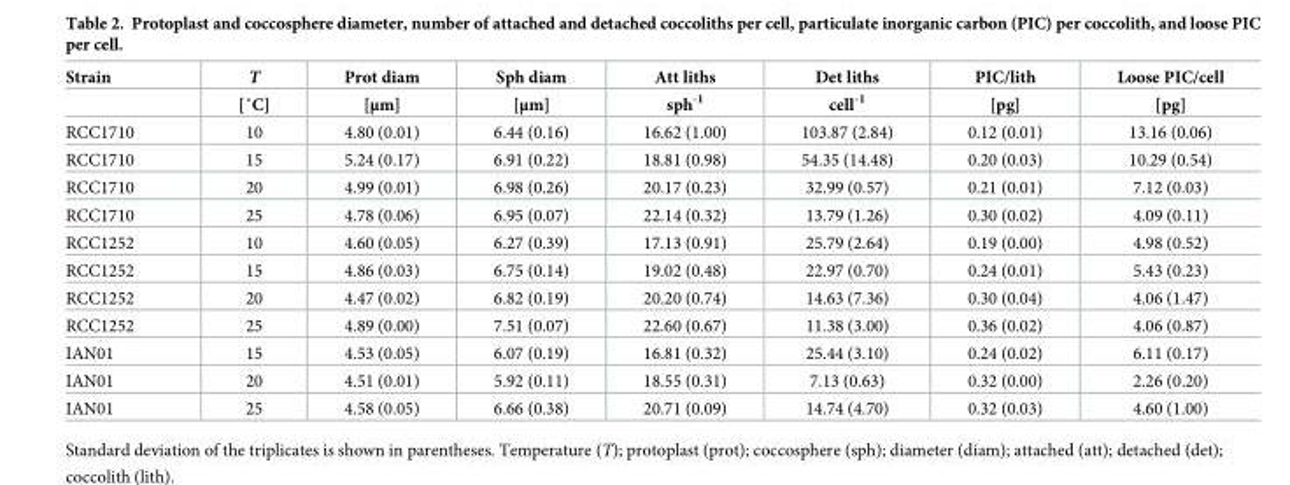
<table><thead><tr><td rowspan="2">Strain</td><td rowspan="2">T [˚C]</td><td rowspan="2">Prot diam [μm]</td><td rowspan="2">Sph diam [μm]</td><td rowspan="2">Att liths sph<sup>-1</sup></td><td rowspan="2">Det liths cell<sup>-1</sup></td><td rowspan="2">PIC/lith [pg]</td><td rowspan="2">Loose PIC/cell [pg]</td></tr><tr></tr></thead><tbody><tr><td>RCC1710</td><td>10</td><td>4.80 (0.01)</td><td>6.44 (0.16)</td><td>16.62 (1.00)</td><td>103.87 (2.84)</td><td>0.12 (0.01)</td><td>13.16 (0.06)</td></tr><tr><td>RCC1710</td><td>15</td><td>5.24 (0.17)</td><td>6.91 (0.22)</td><td>18.81 (0.98)</td><td>54.35 (14.48)</td><td>0.20 (0.03)</td><td>10.29 (0.54)</td></tr><tr><td>RCC1710</td><td>20</td><td>4.99 (0.01)</td><td>6.98 (0.26)</td><td>20.17 (0.23)</td><td>32.99 (0.57)</td><td>0.21 (0.01)</td><td>7.12 (0.03)</td></tr><tr><td>RCC1710</td><td>25</td><td>4.78 (0.06)</td><td>6.95 (0.07)</td><td>22.14 (0.32)</td><td>13.79 (1.26)</td><td>0.30 (0.02)</td><td>4.09 (0.11)</td></tr><tr><td>RCC1252</td><td>10</td><td>4.60 (0.05)</td><td>6.27 (0.39)</td><td>17.13 (0.91)</td><td>25.79 (2.64)</td><td>0.19 (0.00)</td><td>4.98 (0.52)</td></tr><tr><td>RCC1252</td><td>15</td><td>4.86 (0.03)</td><td>6.75 (0.14)</td><td>19.02 (0.48)</td><td>22.97 (0.70)</td><td>0.24 (0.01)</td><td>5.43 (0.23)</td></tr><tr><td>RCC1252</td><td>20</td><td>4.47 (0.02)</td><td>6.82 (0.19)</td><td>20.20 (0.74)</td><td>14.63 (7.36)</td><td>0.30 (0.04)</td><td>4.06 (1.47)</td></tr><tr><td>RCC1252</td><td>25</td><td>4.89 (0.00)</td><td>7.51 (0.07)</td><td>22.60 (0.67)</td><td>11.38 (3.00)</td><td>0.36 (0.02)</td><td>4.06 (0.87)</td></tr><tr><td>IAN01</td><td>15</td><td>4.53 (0.05)</td><td>6.07 (0.19)</td><td>16.81 (0.32)</td><td>25.44 (3.10)</td><td>0.24 (0.02)</td><td>6.11 (0.17)</td></tr><tr><td>IAN01</td><td>20</td><td>4.51 (0.01)</td><td>5.92 (0.11)</td><td>18.55 (0.31)</td><td>7.13 (0.63)</td><td>0.32 (0.00)</td><td>2.26 (0.20)</td></tr><tr><td>IAN01</td><td>25</td><td>4.58 (0.05)</td><td>6.66 (0.38)</td><td>20.71 (0.09)</td><td>14.74 (4.70)</td><td>0.32 (0.03)</td><td>4.60 (1.00)</td></tr></tbody></table>